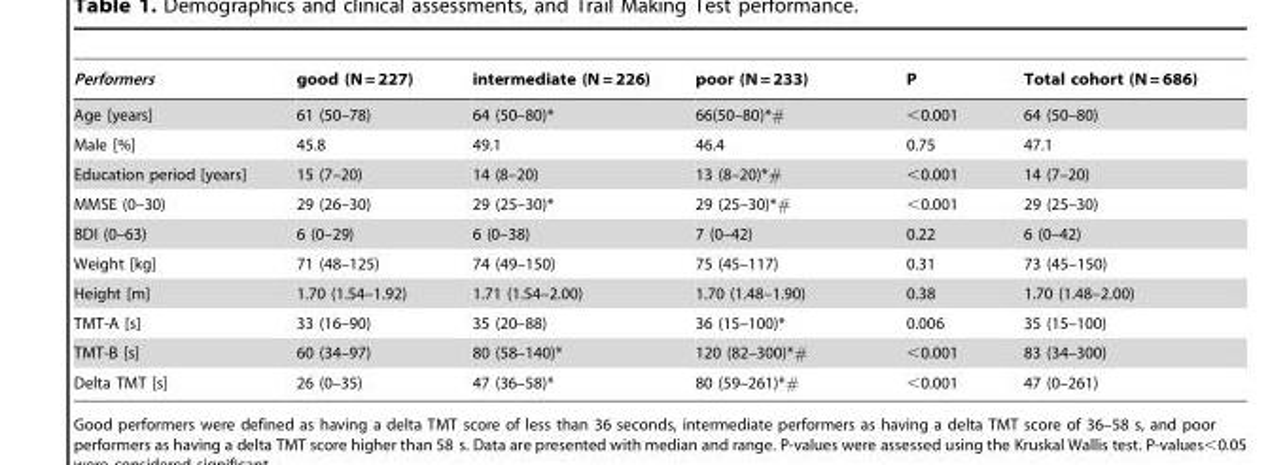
<table><thead><tr><td>Performers</td><td>good (N = 227)</td><td>intermediate (N = 226)</td><td>poor (N = 233)</td><td>P</td><td>Total cohort (N = 686)</td></tr></thead><tbody><tr><td>Age [years]</td><td>61 (50–78)</td><td>64 (50–80)*</td><td>66(50–80)*#</td><td>&lt;0.001</td><td>64 (50–80)</td></tr><tr><td>Male [%]</td><td>45.8</td><td>49.1</td><td>46.4</td><td>0.75</td><td>47.1</td></tr><tr><td>Education period [years]</td><td>15 (7–20)</td><td>14 (8–20)</td><td>13 (8–20)*#</td><td>&lt;0.001</td><td>14 (7–20)</td></tr><tr><td>MMSE (0–30)</td><td>29 (26–30)</td><td>29 (25–30)*</td><td>29 (25–30)*#</td><td>&lt;0.001</td><td>29 (25–30)</td></tr><tr><td>BDI (0–63)</td><td>6 (0–29)</td><td>6 (0–38)</td><td>7 (0–42)</td><td>0.22</td><td>6 (0–42)</td></tr><tr><td>Weight [kg]</td><td>71 (48–125)</td><td>74 (49–150)</td><td>75 (45–117)</td><td>0.31</td><td>73 (45–150)</td></tr><tr><td>Height [m]</td><td>1.70 (1.54–1.92)</td><td>1.71 (1.54–2.00)</td><td>1.70 (1.48–1.90)</td><td>0.38</td><td>1.70 (1.48–2.00)</td></tr><tr><td>TMT-A [s]</td><td>33 (16–90)</td><td>35 (20–88)</td><td>36 (15–100)*</td><td>0.006</td><td>35 (15–100)</td></tr><tr><td>TMT-B [s]</td><td>60 (34–97)</td><td>80 (58–140)*</td><td>120 (82–300)*#</td><td>&lt;0.001</td><td>83 (34–300)</td></tr><tr><td>Delta TMT [s]</td><td>26 (0–35)</td><td>47 (36–58)*</td><td>80 (59–261)*#</td><td>&lt;0.001</td><td>47 (0–261)</td></tr></tbody></table>